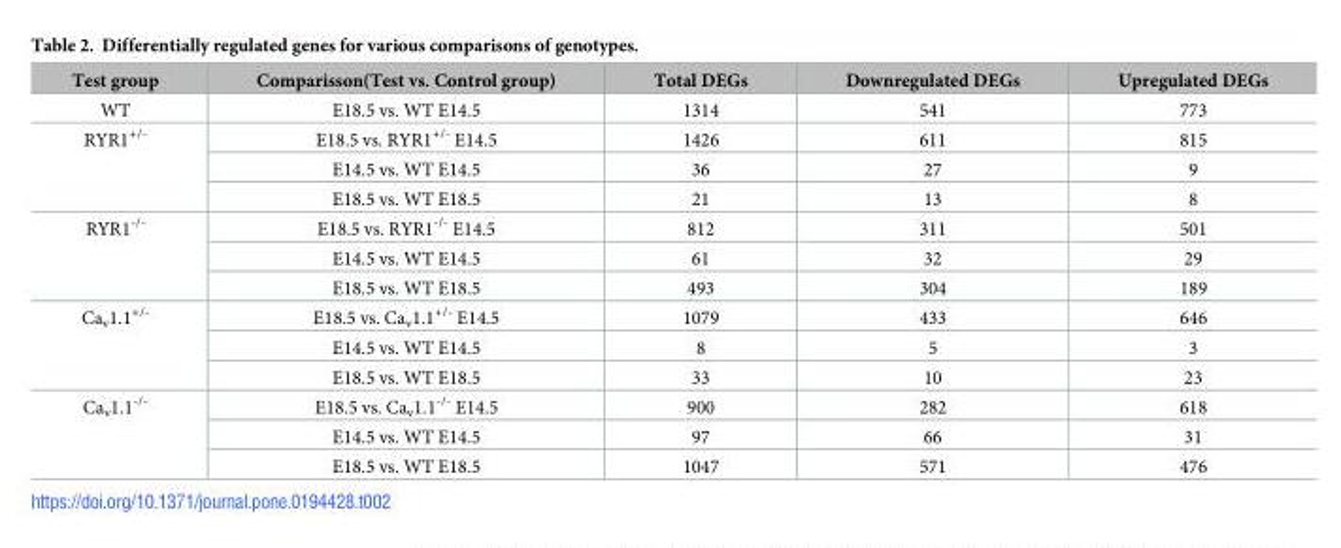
<table><thead><tr><td>Test group</td><td>Comparisson(Test vs. Control group)</td><td>Total DEGs</td><td>Downregulated DEGs</td><td>Upregulated DEGs</td></tr></thead><tbody><tr><td>WT</td><td>E18.5 vs. WT E14.5</td><td>1314</td><td>541</td><td>773</td></tr><tr><td rowspan="3">RYR1<sup>+/-</sup></td><td>E18.5 vs. RYR1<sup>+/-</sup> E14.5</td><td>1426</td><td>611</td><td>815</td></tr><tr><td>E14.5 vs. WT E14.5</td><td>36</td><td>27</td><td>9</td></tr><tr><td>E18.5 vs. WT E18.5</td><td>21</td><td>13</td><td>8</td></tr><tr><td rowspan="3">RYR1<sup>-/-</sup></td><td>E18.5 vs. RYR1<sup>-/-</sup> E14.5</td><td>812</td><td>311</td><td>501</td></tr><tr><td>E14.5 vs. WT E14.5</td><td>61</td><td>32</td><td>29</td></tr><tr><td>E18.5 vs. WT E18.5</td><td>493</td><td>304</td><td>189</td></tr><tr><td rowspan="3">Ca<sub>v</sub>1.1<sup>+/-</sup></td><td>E18.5 vs. Ca<sub>v</sub>1.1<sup>+/-</sup> E14.5</td><td>1079</td><td>433</td><td>646</td></tr><tr><td>E14.5 vs. WT E14.5</td><td>8</td><td>5</td><td>3</td></tr><tr><td>E18.5 vs. WT E18.5</td><td>33</td><td>10</td><td>23</td></tr><tr><td rowspan="3">Ca<sub>v</sub>1.1<sup>-/-</sup></td><td>E18.5 vs. Ca<sub>v</sub>1.1<sup>-/-</sup> E14.5</td><td>900</td><td>282</td><td>618</td></tr><tr><td>E14.5 vs. WT E14.5</td><td>97</td><td>66</td><td>31</td></tr><tr><td>E18.5 vs. WT E18.5</td><td>1047</td><td>571</td><td>476</td></tr></tbody></table>